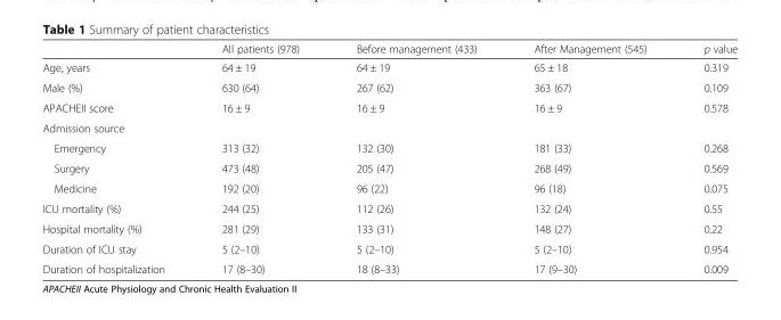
<table><thead><tr><td></td><td>All patients (978)</td><td>Before management (433)</td><td>After Management (545)</td><td>p value</td></tr></thead><tbody><tr><td>Age, years</td><td>64 ± 19</td><td>64 ± 19</td><td>65 ± 18</td><td>0.319</td></tr><tr><td>Male (%)</td><td>630 (64)</td><td>267 (62)</td><td>363 (67)</td><td>0.109</td></tr><tr><td>APACHEII score</td><td>16 ± 9</td><td>16 ± 9</td><td>16 ± 9</td><td>0.578</td></tr><tr><td colspan="5">Admission source</td></tr><tr><td>Emergency</td><td>313 (32)</td><td>132 (30)</td><td>181 (33)</td><td>0.268</td></tr><tr><td>Surgery</td><td>473 (48)</td><td>205 (47)</td><td>268 (49)</td><td>0.569</td></tr><tr><td>Medicine</td><td>192 (20)</td><td>96 (22)</td><td>96 (18)</td><td>0.075</td></tr><tr><td>ICU mortality (%)</td><td>244 (25)</td><td>112 (26)</td><td>132 (24)</td><td>0.55</td></tr><tr><td>Hospital mortality (%)</td><td>281 (29)</td><td>133 (31)</td><td>148 (27)</td><td>0.22</td></tr><tr><td>Duration of ICU stay</td><td>5 (2–10)</td><td>5 (2–10)</td><td>5 (2–10)</td><td>0.954</td></tr><tr><td>Duration of hospitalization</td><td>17 (8–30)</td><td>18 (8–33)</td><td>17 (9–30)</td><td>0.009</td></tr></tbody></table>